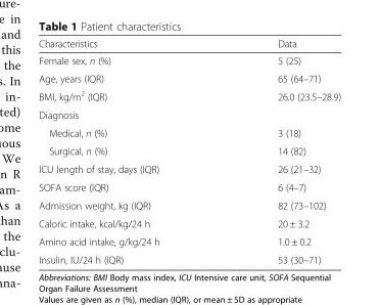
<table><thead><tr><td>Characteristics</td><td>Data</td></tr></thead><tbody><tr><td>Female sex, n (%)</td><td>5 (25)</td></tr><tr><td>Age, years (IQR)</td><td>65 (64–71)</td></tr><tr><td>BMI, kg/m<sup>2</sup> (IQR)</td><td>26.0 (23.5–28.9)</td></tr><tr><td colspan="2">Diagnosis</td></tr><tr><td>Medical, n (%)</td><td>3 (18)</td></tr><tr><td>Surgical, n (%)</td><td>14 (82)</td></tr><tr><td>ICU length of stay, days (IQR)</td><td>26 (21–32)</td></tr><tr><td>SOFA score (IQR)</td><td>6 (4–7)</td></tr><tr><td>Admission weight, kg (IQR)</td><td>82 (73–102)</td></tr><tr><td>Caloric intake, kcal/kg/24 h</td><td>20 ± 3.2</td></tr><tr><td>Amino acid intake, g/kg/24 h</td><td>1.0 ± 0.2</td></tr><tr><td>Insulin, IU/24 h (IQR)</td><td>53 (30–71)</td></tr></tbody></table>